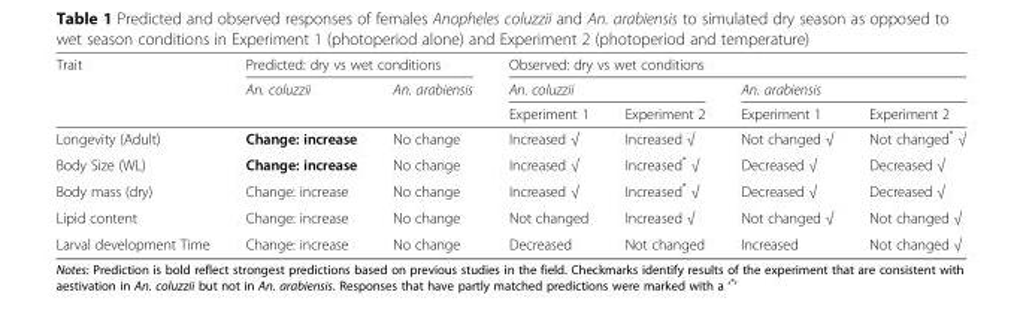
<table><thead><tr><td rowspan="3">Trait</td><td colspan="2">Predicted: dry vs wet conditions</td><td colspan="4">Observed: dry vs wet conditions</td></tr><tr><td rowspan="2">An. coluzzii</td><td rowspan="2">An. arabiensis</td><td colspan="2">An. coluzzii</td><td colspan="2">An. arabiensis</td></tr><tr><td>Experiment 1</td><td>Experiment 2</td><td>Experiment 1</td><td>Experiment 2</td></tr></thead><tbody><tr><td>Longevity (Adult)</td><td>Change: increase</td><td>No change</td><td>Increased √</td><td>Increased √</td><td>Not changed √</td><td>Not changed* √</td></tr><tr><td>Body Size (WL)</td><td>Change: increase</td><td>No change</td><td>Increased √</td><td>Increased* √</td><td>Decreased √</td><td>Decreased √</td></tr><tr><td>Body mass (dry)</td><td>Change: increase</td><td>No change</td><td>Increased √</td><td>Increased* √</td><td>Decreased √</td><td>Decreased √</td></tr><tr><td>Lipid content</td><td>Change: increase</td><td>No change</td><td>Not changed</td><td>Increased √</td><td>Not changed √</td><td>Not changed √</td></tr><tr><td>Larval development Time</td><td>Change: increase</td><td>No change</td><td>Decreased</td><td>Not changed</td><td>Increased</td><td>Not changed √</td></tr></tbody></table>